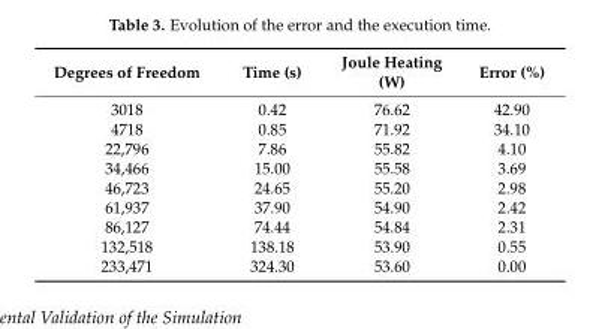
<table><thead><tr><td>Degrees of Freedom</td><td>Time (s)</td><td>Joule Heating (W)</td><td>Error (%)</td></tr></thead><tbody><tr><td>3018</td><td>0.42</td><td>76.62</td><td>42.90</td></tr><tr><td>4718</td><td>0.85</td><td>71.92</td><td>34.10</td></tr><tr><td>22,796</td><td>7.86</td><td>55.82</td><td>4.10</td></tr><tr><td>34,466</td><td>15.00</td><td>55.58</td><td>3.69</td></tr><tr><td>46,723</td><td>24.65</td><td>55.20</td><td>2.98</td></tr><tr><td>61,937</td><td>37.90</td><td>54.90</td><td>2.42</td></tr><tr><td>86,127</td><td>74.44</td><td>54.84</td><td>2.31</td></tr><tr><td>132,518</td><td>138.18</td><td>53.90</td><td>0.55</td></tr><tr><td>233,471</td><td>324.30</td><td>53.60</td><td>0.00</td></tr></tbody></table>